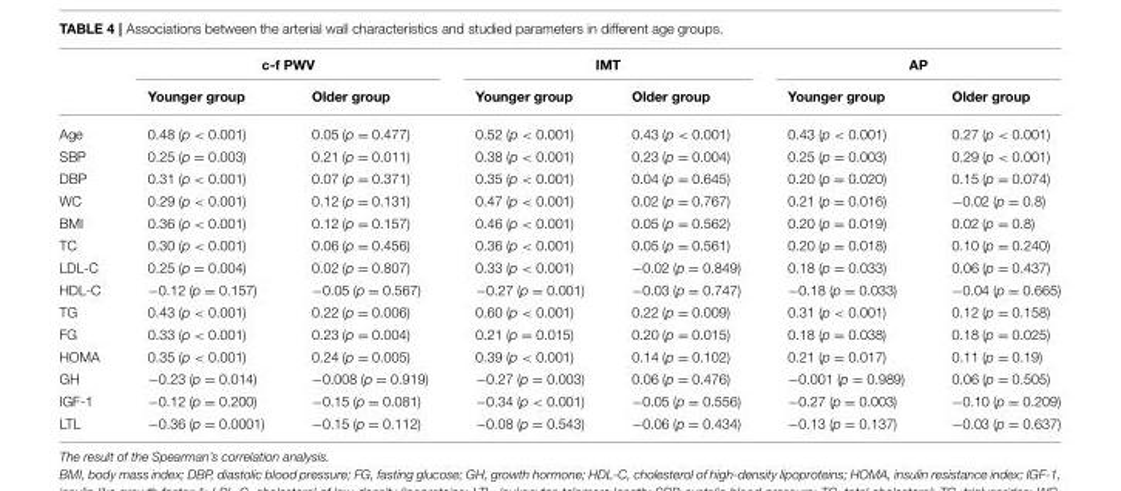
<table><thead><tr><td rowspan="2"></td><td colspan="2">c-f PWV</td><td colspan="2">IMT</td><td colspan="2">AP</td></tr><tr><td>Younger group</td><td>Older group</td><td>Younger group</td><td>Older group</td><td>Younger group</td><td>Older group</td></tr></thead><tbody><tr><td>Age</td><td>0.48 (p &lt; 0.001)</td><td>0.05 (p = 0.477)</td><td>0.52 (p &lt; 0.001)</td><td>0.43 (p &lt; 0.001)</td><td>0.43 (p &lt; 0.001)</td><td>0.27 (p &lt; 0.001)</td></tr><tr><td>SBP</td><td>0.25 (p = 0.003)</td><td>0.21 (p = 0.011)</td><td>0.38 (p &lt; 0.001)</td><td>0.23 (p = 0.004)</td><td>0.25 (p = 0.003)</td><td>0.29 (p &lt; 0.001)</td></tr><tr><td>DBP</td><td>0.31 (p &lt; 0.001)</td><td>0.07 (p = 0.371)</td><td>0.35 (p &lt; 0.001)</td><td>0.04 (p = 0.645)</td><td>0.20 (p = 0.020)</td><td>0.15 (p = 0.074)</td></tr><tr><td>WC</td><td>0.29 (p &lt; 0.001)</td><td>0.12 (p = 0.131)</td><td>0.47 (p &lt; 0.001)</td><td>0.02 (p = 0.767)</td><td>0.21 (p = 0.016)</td><td>−0.02 (p = 0.8)</td></tr><tr><td>BMI</td><td>0.36 (p &lt; 0.001)</td><td>0.12 (p = 0.157)</td><td>0.46 (p &lt; 0.001)</td><td>0.05 (p = 0.562)</td><td>0.20 (p = 0.019)</td><td>0.02 (p = 0.8)</td></tr><tr><td>TC</td><td>0.30 (p &lt; 0.001)</td><td>0.06 (p = 0.456)</td><td>0.36 (p &lt; 0.001)</td><td>0.05 (p = 0.561)</td><td>0.20 (p = 0.018)</td><td>0.10 (p = 0.240)</td></tr><tr><td>LDL-C</td><td>0.25 (p = 0.004)</td><td>0.02 (p = 0.807)</td><td>0.33 (p &lt; 0.001)</td><td>−0.02 (p = 0.849)</td><td>0.18 (p = 0.033)</td><td>0.06 (p = 0.437)</td></tr><tr><td>HDL-C</td><td>−0.12 (p = 0.157)</td><td>−0.05 (p = 0.567)</td><td>−0.27 (p = 0.001)</td><td>−0.03 (p = 0.747)</td><td>−0.18 (p = 0.033)</td><td>−0.04 (p = 0.665)</td></tr><tr><td>TG</td><td>0.43 (p &lt; 0.001)</td><td>0.22 (p = 0.006)</td><td>0.60 (p &lt; 0.001)</td><td>0.22 (p = 0.009)</td><td>0.31 (p &lt; 0.001)</td><td>0.12 (p = 0.158)</td></tr><tr><td>FG</td><td>0.33 (p &lt; 0.001)</td><td>0.23 (p = 0.004)</td><td>0.21 (p = 0.015)</td><td>0.20 (p = 0.015)</td><td>0.18 (p = 0.038)</td><td>0.18 (p = 0.025)</td></tr><tr><td>HOMA</td><td>0.35 (p &lt; 0.001)</td><td>0.24 (p = 0.005)</td><td>0.39 (p &lt; 0.001)</td><td>0.14 (p = 0.102)</td><td>0.21 (p = 0.017)</td><td>0.11 (p = 0.19)</td></tr><tr><td>GH</td><td>−0.23 (p = 0.014)</td><td>−0.008 (p = 0.919)</td><td>−0.27 (p = 0.003)</td><td>0.06 (p = 0.476)</td><td>−0.001 (p = 0.989)</td><td>0.06 (p = 0.505)</td></tr><tr><td>IGF-1</td><td>−0.12 (p = 0.200)</td><td>−0.15 (p = 0.081)</td><td>−0.34 (p &lt; 0.001)</td><td>−0.05 (p = 0.556)</td><td>−0.27 (p = 0.003)</td><td>−0.10 (p = 0.209)</td></tr><tr><td>LTL</td><td>−0.36 (p = 0.0001)</td><td>−0.15 (p = 0.112)</td><td>−0.08 (p = 0.543)</td><td>−0.06 (p = 0.434)</td><td>−0.13 (p = 0.137)</td><td>−0.03 (p = 0.637)</td></tr></tbody></table>